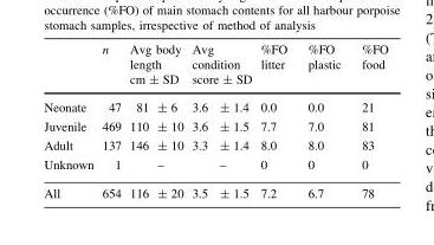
<table><thead><tr><td rowspan="2">Neonate</td><td rowspan="2">n 47</td><td colspan="2">Avg body length cm ± SD</td><td colspan="2">Avg condition score ± SD</td><td rowspan="2">%FO litter 0.0</td><td rowspan="2">%FO plastic 0.0</td><td rowspan="2">%FO food 21</td></tr><tr><td>81</td><td>± 6</td><td>3.6</td><td>± 1.4</td></tr></thead><tbody><tr><td>Juvenile</td><td>469</td><td>110</td><td>± 10</td><td>3.6</td><td>± 1.5</td><td>7.7</td><td>7.0</td><td>81</td></tr><tr><td>Adult</td><td>137</td><td>146</td><td>± 10</td><td>3.3</td><td>± 1.4</td><td>8.0</td><td>8.0</td><td>83</td></tr><tr><td>Unknown</td><td>1</td><td></td><td>–</td><td></td><td>–</td><td>0</td><td>0</td><td>0</td></tr><tr><td>All</td><td>654</td><td>116</td><td>± 20</td><td>3.5</td><td>± 1.5</td><td>7.2</td><td>6.7</td><td>78</td></tr></tbody></table>